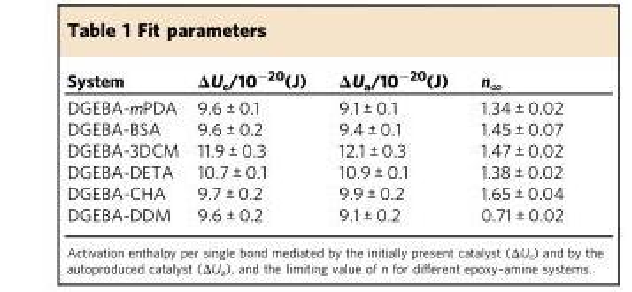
<table><thead><tr><td>System</td><td>ΔU<sub>c</sub>/10<sup>−20</sup>(J)</td><td>ΔU<sub>a</sub>/10<sup>−20</sup>(J)</td><td>n<sub>∞</sub></td></tr></thead><tbody><tr><td>DGEBA-mPDA</td><td>9.6 ± 0.1</td><td>9.1 ± 0.1</td><td>1.34 ± 0.02</td></tr><tr><td>DGEBA-BSA</td><td>9.6 ± 0.2</td><td>9.4 ± 0.1</td><td>1.45 ± 0.07</td></tr><tr><td>DGEBA-3DCM</td><td>11.9 ± 0.3</td><td>12.1 ± 0.3</td><td>1.47 ± 0.02</td></tr><tr><td>DGEBA-DETA</td><td>10.7 ± 0.1</td><td>10.9 ± 0.1</td><td>1.38 ± 0.02</td></tr><tr><td>DGEBA-CHA</td><td>9.7 ± 0.2</td><td>9.9 ± 0.2</td><td>1.65 ± 0.04</td></tr><tr><td>DGEBA-DDM</td><td>9.6 ± 0.2</td><td>9.1 ± 0.2</td><td>0.71 ± 0.02</td></tr></tbody></table>